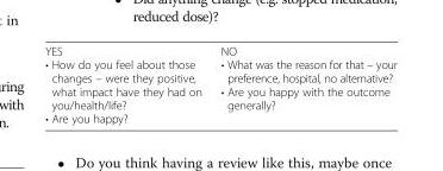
<table><tbody><tr><td>YES • How do you feel about those changes – were they positive, what impact have they had on you/health/life? • Are you happy?</td><td>NO • What was the reason for that – your preference, hospital, no alternative? • Are you happy with the outcome generally?</td></tr></tbody></table>